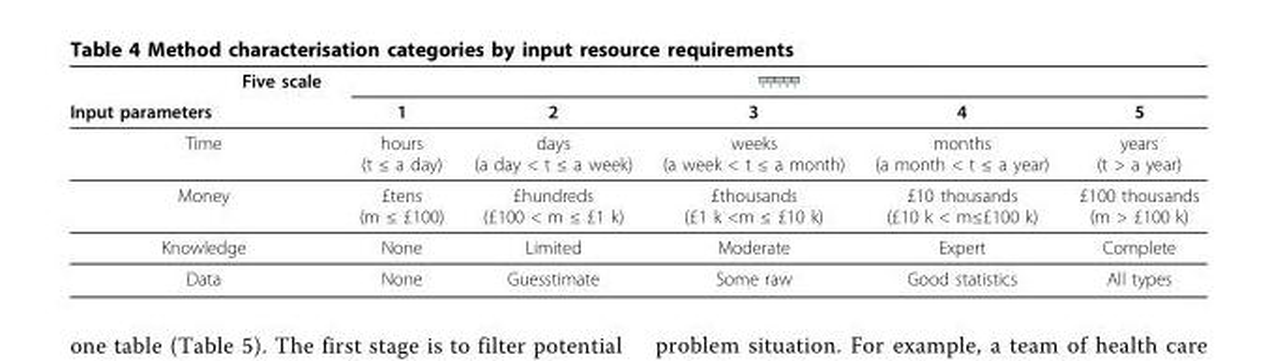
<table><thead><tr><td rowspan="2">Input parameters</td><td rowspan="2">Five scale</td><td rowspan="2">1</td><td rowspan="2">2</td><td rowspan="2">3</td><td rowspan="2">4</td><td rowspan="2">5</td></tr><tr></tr></thead><tbody><tr><td colspan="2">Time</td><td>hours (t ≤ a day)</td><td>days (a day &lt; t ≤ a week)</td><td>weeks (a week &lt; t ≤ a month)</td><td>months (a month &lt; t ≤ a year)</td><td>years (t &gt; a year)</td></tr><tr><td colspan="2">Money</td><td>£tens (m ≤ £100)</td><td>£hundreds (£100 &lt; m ≤ £1 k)</td><td>£thousands (£1 k &lt;m ≤ £10 k)</td><td>£10 thousands (£10 k &lt; m≤£100 k)</td><td>£100 thousands (m &gt; £100 k)</td></tr><tr><td colspan="2">Knowledge</td><td>None</td><td>Limited</td><td>Moderate</td><td>Expert</td><td>Complete</td></tr><tr><td colspan="2">Data</td><td>None</td><td>Guesstimate</td><td>Some raw</td><td>Good statistics</td><td>All types</td></tr></tbody></table>